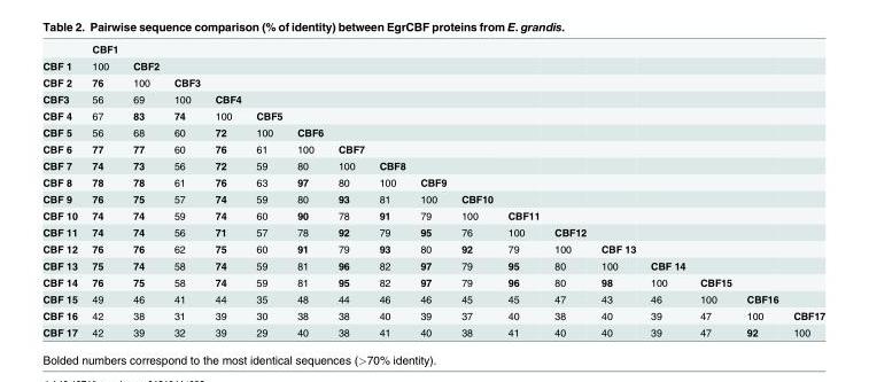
<table><thead><tr><td></td><td>CBF1</td><td></td><td></td><td></td><td></td><td></td><td></td><td></td><td></td><td></td><td></td><td></td><td></td><td></td><td></td><td></td><td></td></tr></thead><tbody><tr><td>CBF 1</td><td>100</td><td>CBF2</td><td></td><td></td><td></td><td></td><td></td><td></td><td></td><td></td><td></td><td></td><td></td><td></td><td></td><td></td><td></td></tr><tr><td>CBF 2</td><td>76</td><td>100</td><td>CBF3</td><td></td><td></td><td></td><td></td><td></td><td></td><td></td><td></td><td></td><td></td><td></td><td></td><td></td><td></td></tr><tr><td>CBF3</td><td>56</td><td>69</td><td>100</td><td>CBF4</td><td></td><td></td><td></td><td></td><td></td><td></td><td></td><td></td><td></td><td></td><td></td><td></td><td></td></tr><tr><td>CBF 4</td><td>67</td><td>83</td><td>74</td><td>100</td><td>CBF5</td><td></td><td></td><td></td><td></td><td></td><td></td><td></td><td></td><td></td><td></td><td></td><td></td></tr><tr><td>CBF 5</td><td>56</td><td>68</td><td>60</td><td>72</td><td>100</td><td>CBF6</td><td></td><td></td><td></td><td></td><td></td><td></td><td></td><td></td><td></td><td></td><td></td></tr><tr><td>CBF 6</td><td>77</td><td>77</td><td>60</td><td>76</td><td>61</td><td>100</td><td>CBF7</td><td></td><td></td><td></td><td></td><td></td><td></td><td></td><td></td><td></td><td></td></tr><tr><td>CBF 7</td><td>74</td><td>73</td><td>56</td><td>72</td><td>59</td><td>80</td><td>100</td><td>CBF8</td><td></td><td></td><td></td><td></td><td></td><td></td><td></td><td></td><td></td></tr><tr><td>CBF 8</td><td>78</td><td>78</td><td>61</td><td>76</td><td>63</td><td>97</td><td>80</td><td>100</td><td>CBF9</td><td></td><td></td><td></td><td></td><td></td><td></td><td></td><td></td></tr><tr><td>CBF 9</td><td>76</td><td>75</td><td>57</td><td>74</td><td>59</td><td>80</td><td>93</td><td>81</td><td>100</td><td>CBF10</td><td></td><td></td><td></td><td></td><td></td><td></td><td></td></tr><tr><td>CBF 10</td><td>74</td><td>74</td><td>59</td><td>74</td><td>60</td><td>90</td><td>78</td><td>91</td><td>79</td><td>100</td><td>CBF11</td><td></td><td></td><td></td><td></td><td></td><td></td></tr><tr><td>CBF 11</td><td>74</td><td>74</td><td>56</td><td>71</td><td>57</td><td>78</td><td>92</td><td>79</td><td>95</td><td>76</td><td>100</td><td>CBF12</td><td></td><td></td><td></td><td></td><td></td></tr><tr><td>CBF 12</td><td>76</td><td>76</td><td>62</td><td>75</td><td>60</td><td>91</td><td>79</td><td>93</td><td>80</td><td>92</td><td>79</td><td>100</td><td>CBF 13</td><td></td><td></td><td></td><td></td></tr><tr><td>CBF 13</td><td>75</td><td>74</td><td>58</td><td>74</td><td>59</td><td>81</td><td>96</td><td>82</td><td>97</td><td>79</td><td>95</td><td>80</td><td>100</td><td>CBF 14</td><td></td><td></td><td></td></tr><tr><td>CBF 14</td><td>76</td><td>75</td><td>58</td><td>74</td><td>59</td><td>81</td><td>95</td><td>82</td><td>97</td><td>79</td><td>96</td><td>80</td><td>98</td><td>100</td><td>CBF15</td><td></td><td></td></tr><tr><td>CBF 15</td><td>49</td><td>46</td><td>41</td><td>44</td><td>35</td><td>48</td><td>44</td><td>46</td><td>46</td><td>45</td><td>45</td><td>47</td><td>43</td><td>46</td><td>100</td><td>CBF16</td><td></td></tr><tr><td>CBF 16</td><td>42</td><td>38</td><td>31</td><td>39</td><td>30</td><td>38</td><td>38</td><td>40</td><td>39</td><td>37</td><td>40</td><td>38</td><td>40</td><td>39</td><td>47</td><td>100</td><td>CBF17</td></tr><tr><td>CBF 17</td><td>42</td><td>39</td><td>32</td><td>39</td><td>29</td><td>40</td><td>38</td><td>41</td><td>40</td><td>38</td><td>41</td><td>40</td><td>40</td><td>39</td><td>47</td><td>92</td><td>100</td></tr></tbody></table>